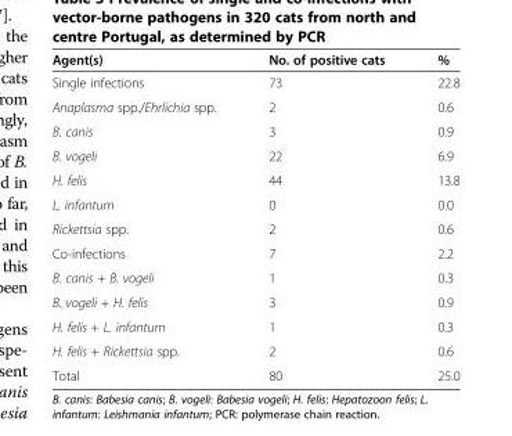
<table><thead><tr><td>Agent(s)</td><td>No. of positive cats</td><td>%</td></tr></thead><tbody><tr><td>Single infections</td><td>73</td><td>22.8</td></tr><tr><td>Anaplasma spp./Ehrlichia spp.</td><td>2</td><td>0.6</td></tr><tr><td>B. canis</td><td>3</td><td>0.9</td></tr><tr><td>B. vogeli</td><td>22</td><td>6.9</td></tr><tr><td>H. felis</td><td>44</td><td>13.8</td></tr><tr><td>L. infantum</td><td>0</td><td>0.0</td></tr><tr><td>Rickettsia spp.</td><td>2</td><td>0.6</td></tr><tr><td>Co-infections</td><td>7</td><td>2.2</td></tr><tr><td>B. canis + B. vogeli</td><td>1</td><td>0.3</td></tr><tr><td>B. vogeli + H. felis</td><td>3</td><td>0.9</td></tr><tr><td>H. felis + L. infantum</td><td>1</td><td>0.3</td></tr><tr><td>H. felis + Rickettsia spp.</td><td>2</td><td>0.6</td></tr><tr><td>Total</td><td>80</td><td>25.0</td></tr></tbody></table>